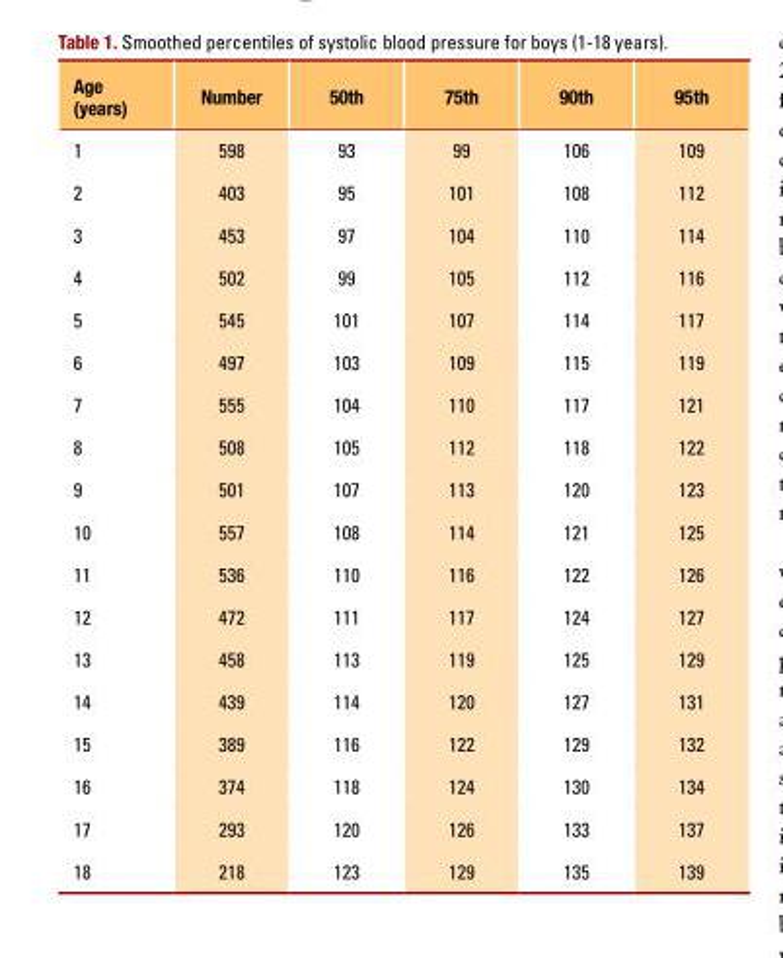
<table><thead><tr><td>Age (years)</td><td>Number</td><td>50th</td><td>75th</td><td>90th</td><td>95th</td></tr></thead><tbody><tr><td>1</td><td>598</td><td>93</td><td>99</td><td>106</td><td>109</td></tr><tr><td>2</td><td>403</td><td>95</td><td>101</td><td>108</td><td>112</td></tr><tr><td>3</td><td>453</td><td>97</td><td>104</td><td>110</td><td>114</td></tr><tr><td>4</td><td>502</td><td>99</td><td>105</td><td>112</td><td>116</td></tr><tr><td>5</td><td>545</td><td>101</td><td>107</td><td>114</td><td>117</td></tr><tr><td>6</td><td>497</td><td>103</td><td>109</td><td>115</td><td>119</td></tr><tr><td>7</td><td>555</td><td>104</td><td>110</td><td>117</td><td>121</td></tr><tr><td>8</td><td>508</td><td>105</td><td>112</td><td>118</td><td>122</td></tr><tr><td>9</td><td>501</td><td>107</td><td>113</td><td>120</td><td>123</td></tr><tr><td>10</td><td>557</td><td>108</td><td>114</td><td>121</td><td>125</td></tr><tr><td>11</td><td>536</td><td>110</td><td>116</td><td>122</td><td>126</td></tr><tr><td>12</td><td>472</td><td>111</td><td>117</td><td>124</td><td>127</td></tr><tr><td>13</td><td>458</td><td>113</td><td>119</td><td>125</td><td>129</td></tr><tr><td>14</td><td>439</td><td>114</td><td>120</td><td>127</td><td>131</td></tr><tr><td>15</td><td>389</td><td>116</td><td>122</td><td>129</td><td>132</td></tr><tr><td>16</td><td>374</td><td>118</td><td>124</td><td>130</td><td>134</td></tr><tr><td>17</td><td>293</td><td>120</td><td>126</td><td>133</td><td>137</td></tr><tr><td>18</td><td>218</td><td>123</td><td>129</td><td>135</td><td>139</td></tr></tbody></table>